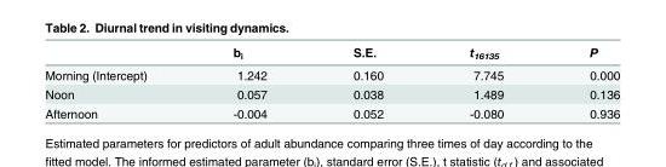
<table><thead><tr><td></td><td>b<sub>i</sub></td><td>S.E.</td><td>t<sub>16135</sub></td><td>P</td></tr></thead><tbody><tr><td>Morning (Intercept)</td><td>1.242</td><td>0.160</td><td>7.745</td><td>0.000</td></tr><tr><td>Noon</td><td>0.057</td><td>0.038</td><td>1.489</td><td>0.136</td></tr><tr><td>Afternoon</td><td>-0.004</td><td>0.052</td><td>-0.080</td><td>0.936</td></tr></tbody></table>